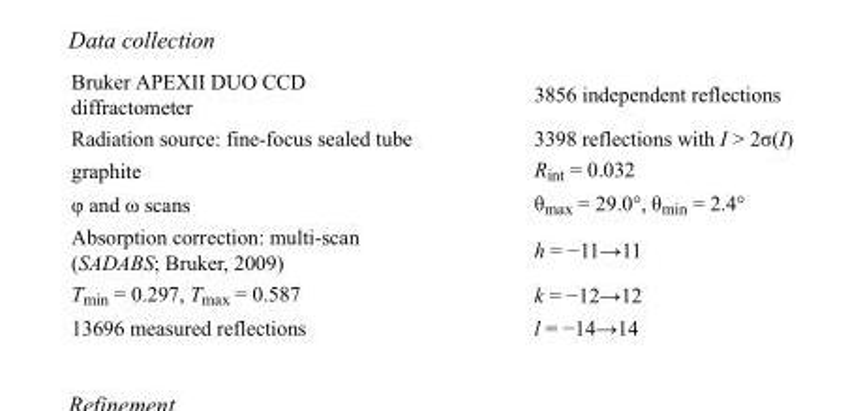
<table><tbody><tr><td>Bruker APEXII DUO CCD diffractometer</td><td>3856 independent reflections</td></tr><tr><td>Radiation source: fine-focus sealed tube</td><td>3398 reflections with I &gt; 2σ(I)</td></tr><tr><td>graphite</td><td>R<sub>int</sub> = 0.032</td></tr><tr><td>φ and ω scans</td><td>θ<sub>max</sub> = 29.0°, θ<sub>min</sub> = 2.4°</td></tr><tr><td>Absorption correction: multi-scan (SADABS; Bruker, 2009)</td><td>h = −11→11</td></tr><tr><td>T<sub>min</sub> = 0.297, T<sub>max</sub> = 0.587</td><td>k = −12→12</td></tr><tr><td>13696 measured reflections</td><td>l = −14→14</td></tr></tbody></table>